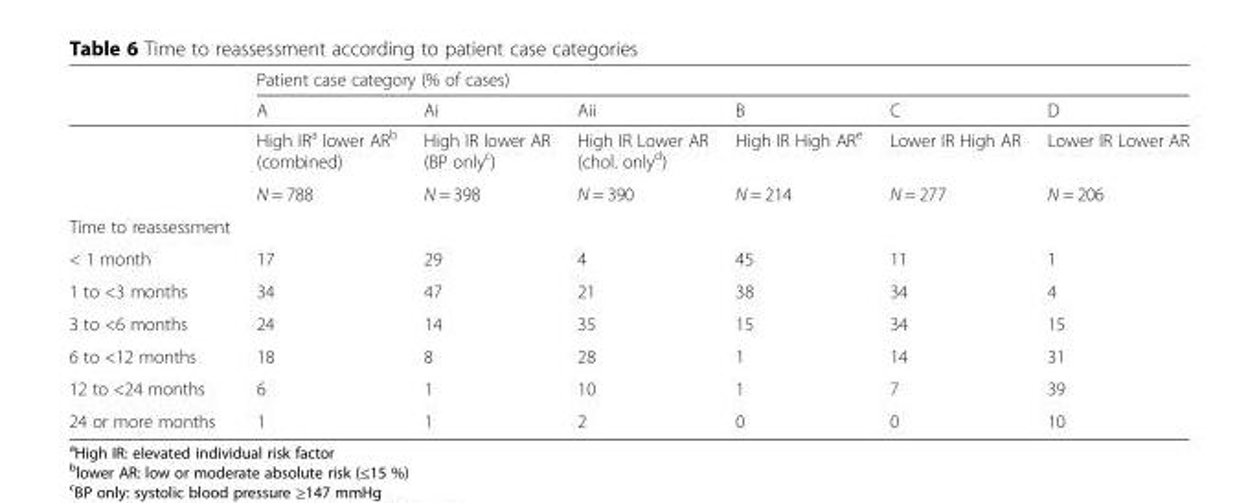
<table><thead><tr><td rowspan="2"></td><td colspan="6">Patient case category (% of cases)</td></tr><tr><td>A</td><td>Ai</td><td>Aii</td><td>B</td><td>C</td><td>D</td></tr></thead><tbody><tr><td rowspan="2"></td><td>High IR<sup>a</sup> lower AR<sup>b</sup> (combined)</td><td>High IR lower AR (BP only<sup>c</sup>)</td><td>High IR Lower AR (chol. only<sup>d</sup>)</td><td>High IR High AR<sup>e</sup></td><td>Lower IR High AR</td><td>Lower IR Lower AR</td></tr><tr><td>N = 788</td><td>N = 398</td><td>N = 390</td><td>N = 214</td><td>N = 277</td><td>N = 206</td></tr><tr><td colspan="7">Time to reassessment</td></tr><tr><td>&lt; 1 month</td><td>17</td><td>29</td><td>4</td><td>45</td><td>11</td><td>1</td></tr><tr><td>1 to &lt;3 months</td><td>34</td><td>47</td><td>21</td><td>38</td><td>34</td><td>4</td></tr><tr><td>3 to &lt;6 months</td><td>24</td><td>14</td><td>35</td><td>15</td><td>34</td><td>15</td></tr><tr><td>6 to &lt;12 months</td><td>18</td><td>8</td><td>28</td><td>1</td><td>14</td><td>31</td></tr><tr><td>12 to &lt;24 months</td><td>6</td><td>1</td><td>10</td><td>1</td><td>7</td><td>39</td></tr><tr><td>24 or more months</td><td>1</td><td>1</td><td>2</td><td>0</td><td>0</td><td>10</td></tr></tbody></table>